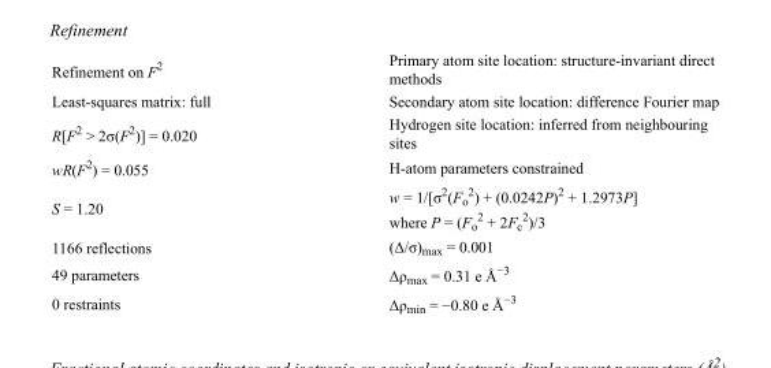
<table><tbody><tr><td>Refinement on F<sup>2</sup></td><td>Primary atom site location: structure-invariant direct methods</td></tr><tr><td>Least-squares matrix: full</td><td>Secondary atom site location: difference Fourier map</td></tr><tr><td>R[F<sup>2</sup> &gt; 2σ(F<sup>2</sup>)] = 0.020</td><td>Hydrogen site location: inferred from neighbouring sites</td></tr><tr><td>wR(F<sup>2</sup>) = 0.055</td><td>H-atom parameters constrained</td></tr><tr><td>S = 1.20</td><td>w = 1/[σ<sup>2</sup>(F<sub>o</sub> <sup>2</sup>) + (0.0242P)<sup>2</sup> + 1.2973P] where P = (F<sub>o</sub> <sup>2</sup> + 2F<sub>c</sub> <sup>2</sup>)/3</td></tr><tr><td>1166 reflections</td><td>(Δ/σ)<sub>max</sub> = 0.001</td></tr><tr><td>49 parameters</td><td>Δρ<sub>max</sub> = 0.31 e Å<sup>−3</sup></td></tr><tr><td>0 restraints</td><td>Δρ<sub>min</sub> = −0.80 e Å<sup>−3</sup></td></tr></tbody></table>